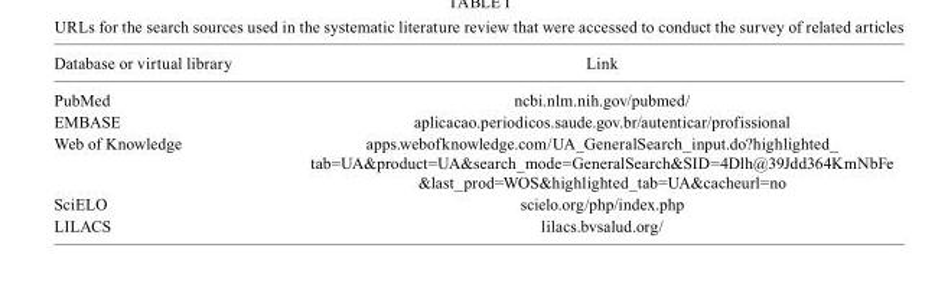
<table><thead><tr><td>Database or virtual library</td><td>Link</td></tr></thead><tbody><tr><td>PubMed</td><td>ncbi.nlm.nih.gov/pubmed/</td></tr><tr><td>EMBASE</td><td>aplicacao.periodicos.saude.gov.br/autenticar/profissional</td></tr><tr><td>Web of Knowledge</td><td>apps.webofknowledge.com/UA_GeneralSearch_input.do?highlighted_ tab=UA&amp;product=UA&amp;search_mode=GeneralSearch&amp;SID=4Dlh@39Jdd364KmNbFe &amp;last_prod=WOS&amp;highlighted_tab=UA&amp;cacheurl=no</td></tr><tr><td>SciELO</td><td>scielo.org/php/index.php</td></tr><tr><td>LILACS</td><td>lilacs.bvsalud.org/</td></tr></tbody></table>